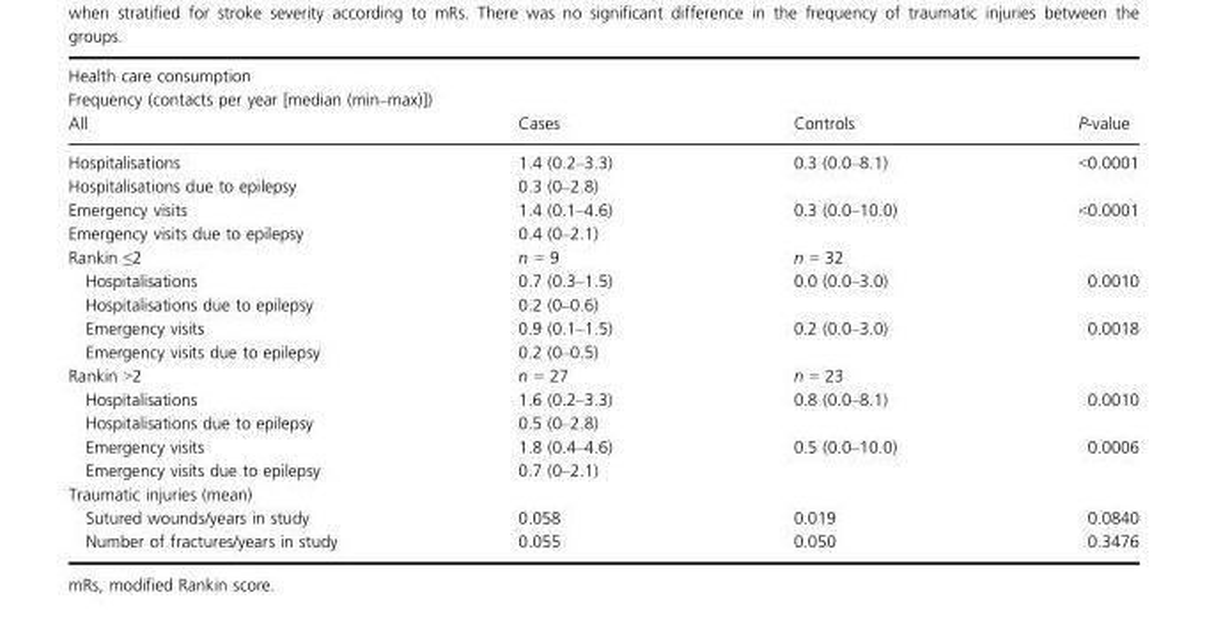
<table><thead><tr><td colspan="4">Health care consumption Frequency (contacts per year [median (min–max)])</td></tr><tr><td>All</td><td>Cases</td><td>Controls</td><td>P-value</td></tr></thead><tbody><tr><td>Hospitalisations</td><td>1.4 (0.2–3.3)</td><td>0.3 (0.0–8.1)</td><td>&lt;0.0001</td></tr><tr><td>Hospitalisations due to epilepsy</td><td>0.3 (0–2.8)</td><td></td><td></td></tr><tr><td>Emergency visits</td><td>1.4 (0.1–4.6)</td><td>0.3 (0.0–10.0)</td><td>&lt;0.0001</td></tr><tr><td>Emergency visits due to epilepsy</td><td>0.4 (0–2.1)</td><td></td><td></td></tr><tr><td>Rankin ≤2</td><td>n = 9</td><td>n = 32</td><td></td></tr><tr><td>Hospitalisations</td><td>0.7 (0.3–1.5)</td><td>0.0 (0.0–3.0)</td><td>0.0010</td></tr><tr><td>Hospitalisations due to epilepsy</td><td>0.2 (0–0.6)</td><td></td><td></td></tr><tr><td>Emergency visits</td><td>0.9 (0.1–1.5)</td><td>0.2 (0.0–3.0)</td><td>0.0018</td></tr><tr><td>Emergency visits due to epilepsy</td><td>0.2 (0–0.5)</td><td></td><td></td></tr><tr><td>Rankin &gt;2</td><td>n = 27</td><td>n = 23</td><td></td></tr><tr><td>Hospitalisations</td><td>1.6 (0.2–3.3)</td><td>0.8 (0.0–8.1)</td><td>0.0010</td></tr><tr><td>Hospitalisations due to epilepsy</td><td>0.5 (0–2.8)</td><td></td><td></td></tr><tr><td>Emergency visits</td><td>1.8 (0.4–4.6)</td><td>0.5 (0.0–10.0)</td><td>0.0006</td></tr><tr><td>Emergency visits due to epilepsy</td><td>0.7 (0–2.1)</td><td></td><td></td></tr><tr><td colspan="4">Traumatic injuries (mean)</td></tr><tr><td>Sutured wounds/years in study</td><td>0.058</td><td>0.019</td><td>0.0840</td></tr><tr><td>Number of fractures/years in study</td><td>0.055</td><td>0.050</td><td>0.3476</td></tr></tbody></table>